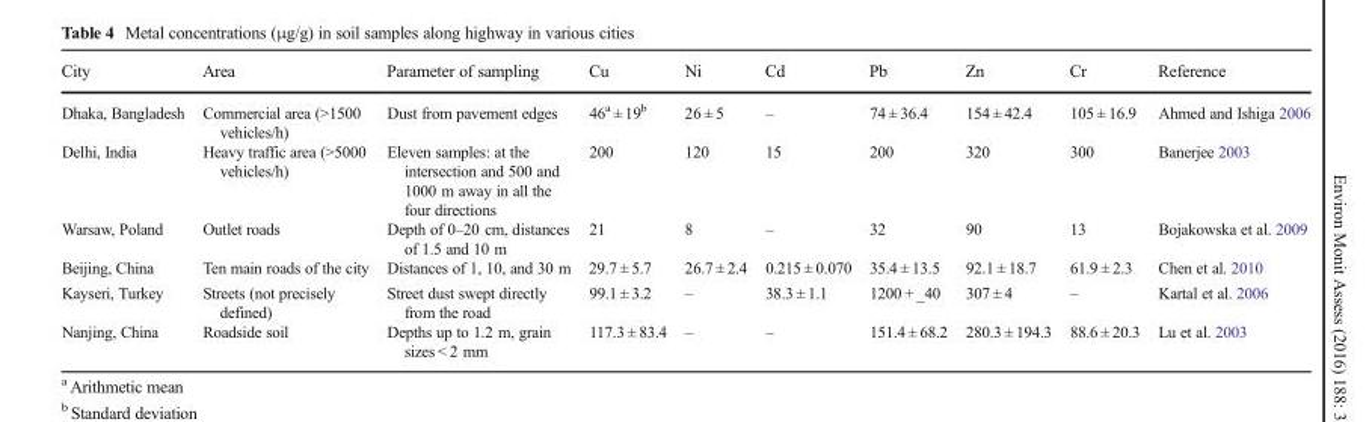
<table><thead><tr><td>City</td><td>Area</td><td>Parameter of sampling</td><td>Cu</td><td>Ni</td><td>Cd</td><td>Pb</td><td>Zn</td><td>Cr</td><td>Reference</td></tr></thead><tbody><tr><td>Dhaka, Bangladesh</td><td>Commercial area (&gt;1500 vehicles/h)</td><td>Dust from pavement edges</td><td>46<sup>a</sup> ± 19<sup>b</sup></td><td>26 ± 5</td><td>–</td><td>74 ± 36.4</td><td>154 ± 42.4</td><td>105 ± 16.9</td><td>Ahmed and Ishiga 2006</td></tr><tr><td>Delhi, India</td><td>Heavy traffic area (&gt;5000 vehicles/h)</td><td>Eleven samples: at the intersection and 500 and 1000 m away in all the four directions</td><td>200</td><td>120</td><td>15</td><td>200</td><td>320</td><td>300</td><td>Banerjee 2003</td></tr><tr><td>Warsaw, Poland</td><td>Outlet roads</td><td>Depth of 0–20 cm, distances of 1.5 and 10 m</td><td>21</td><td>8</td><td>–</td><td>32</td><td>90</td><td>13</td><td>Bojakowska et al. 2009</td></tr><tr><td>Beijing, China</td><td>Ten main roads of the city</td><td>Distances of 1, 10, and 30 m</td><td>29.7 ± 5.7</td><td>26.7 ± 2.4</td><td>0.215 ± 0.070</td><td>35.4 ± 13.5</td><td>92.1 ± 18.7</td><td>61.9 ± 2.3</td><td>Chen et al. 2010</td></tr><tr><td>Kayseri, Turkey</td><td>Streets (not precisely defined)</td><td>Street dust swept directly from the road</td><td>99.1 ± 3.2</td><td>–</td><td>38.3 ± 1.1</td><td>1200 + _40</td><td>307 ± 4</td><td>–</td><td>Kartal et al. 2006</td></tr><tr><td>Nanjing, China</td><td>Roadside soil</td><td>Depths up to 1.2 m, grain sizes &lt; 2 mm</td><td>117.3 ± 83.4</td><td>–</td><td>–</td><td>151.4 ± 68.2</td><td>280.3 ± 194.3</td><td>88.6 ± 20.3</td><td>Lu et al. 2003</td></tr></tbody></table>